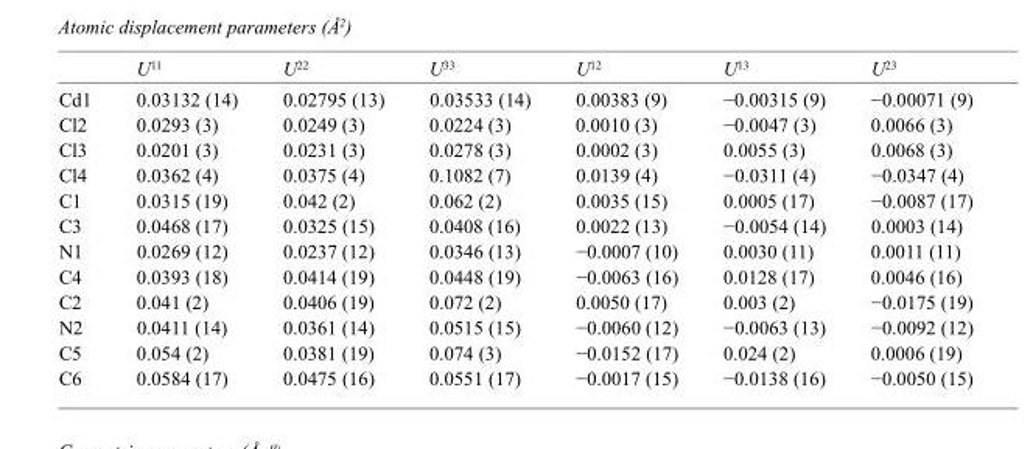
<table><thead><tr><td></td><td>U<sup>11</sup></td><td>U<sup>22</sup></td><td>U<sup>33</sup></td><td>U<sup>12</sup></td><td>U<sup>13</sup></td><td>U<sup>23</sup></td></tr></thead><tbody><tr><td>Cd1</td><td>0.03132 (14)</td><td>0.02795 (13)</td><td>0.03533 (14)</td><td>0.00383 (9)</td><td>−0.00315 (9)</td><td>−0.00071 (9)</td></tr><tr><td>Cl2</td><td>0.0293 (3)</td><td>0.0249 (3)</td><td>0.0224 (3)</td><td>0.0010 (3)</td><td>−0.0047 (3)</td><td>0.0066 (3)</td></tr><tr><td>Cl3</td><td>0.0201 (3)</td><td>0.0231 (3)</td><td>0.0278 (3)</td><td>0.0002 (3)</td><td>0.0055 (3)</td><td>0.0068 (3)</td></tr><tr><td>Cl4</td><td>0.0362 (4)</td><td>0.0375 (4)</td><td>0.1082 (7)</td><td>0.0139 (4)</td><td>−0.0311 (4)</td><td>−0.0347 (4)</td></tr><tr><td>C1</td><td>0.0315 (19)</td><td>0.042 (2)</td><td>0.062 (2)</td><td>0.0035 (15)</td><td>0.0005 (17)</td><td>−0.0087 (17)</td></tr><tr><td>C3</td><td>0.0468 (17)</td><td>0.0325 (15)</td><td>0.0408 (16)</td><td>0.0022 (13)</td><td>−0.0054 (14)</td><td>0.0003 (14)</td></tr><tr><td>N1</td><td>0.0269 (12)</td><td>0.0237 (12)</td><td>0.0346 (13)</td><td>−0.0007 (10)</td><td>0.0030 (11)</td><td>0.0011 (11)</td></tr><tr><td>C4</td><td>0.0393 (18)</td><td>0.0414 (19)</td><td>0.0448 (19)</td><td>−0.0063 (16)</td><td>0.0128 (17)</td><td>0.0046 (16)</td></tr><tr><td>C2</td><td>0.041 (2)</td><td>0.0406 (19)</td><td>0.072 (2)</td><td>0.0050 (17)</td><td>0.003 (2)</td><td>−0.0175 (19)</td></tr><tr><td>N2</td><td>0.0411 (14)</td><td>0.0361 (14)</td><td>0.0515 (15)</td><td>−0.0060 (12)</td><td>−0.0063 (13)</td><td>−0.0092 (12)</td></tr><tr><td>C5</td><td>0.054 (2)</td><td>0.0381 (19)</td><td>0.074 (3)</td><td>−0.0152 (17)</td><td>0.024 (2)</td><td>0.0006 (19)</td></tr><tr><td>C6</td><td>0.0584 (17)</td><td>0.0475 (16)</td><td>0.0551 (17)</td><td>−0.0017 (15)</td><td>−0.0138 (16)</td><td>−0.0050 (15)</td></tr></tbody></table>